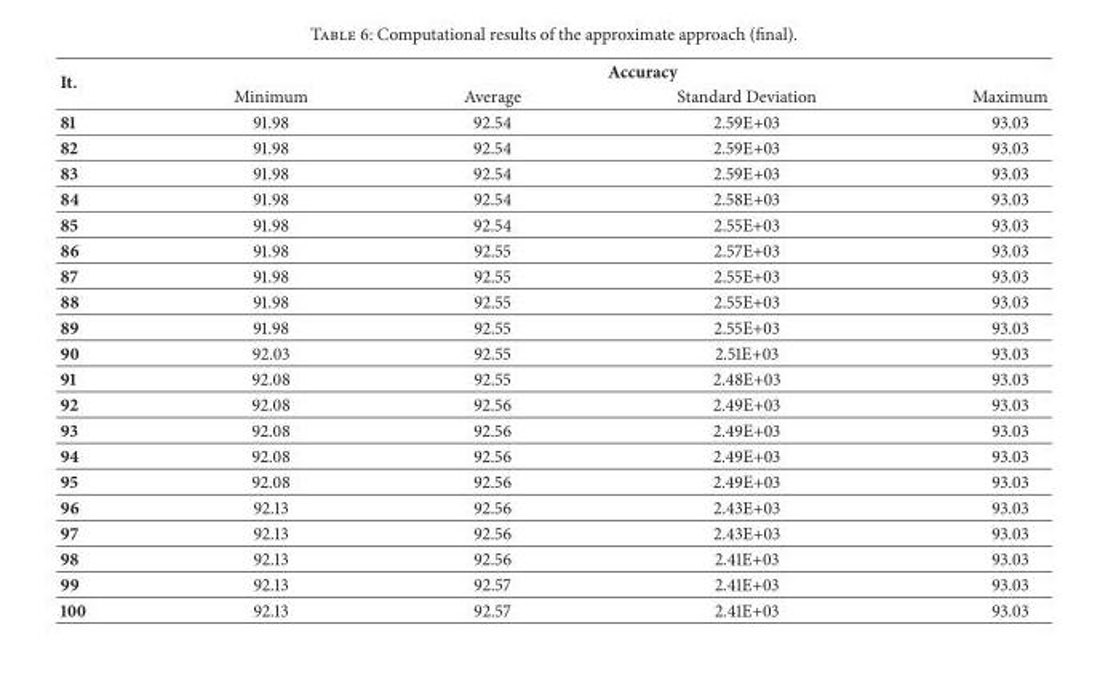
<table><thead><tr><td rowspan="2">It.</td><td colspan="4">Accuracy</td></tr><tr><td>Minimum</td><td>Average</td><td>Standard Deviation</td><td>Maximum</td></tr></thead><tbody><tr><td>81</td><td>91.98</td><td>92.54</td><td>2.59E+03</td><td>93.03</td></tr><tr><td>82</td><td>91.98</td><td>92.54</td><td>2.59E+03</td><td>93.03</td></tr><tr><td>83</td><td>91.98</td><td>92.54</td><td>2.59E+03</td><td>93.03</td></tr><tr><td>84</td><td>91.98</td><td>92.54</td><td>2.58E+03</td><td>93.03</td></tr><tr><td>85</td><td>91.98</td><td>92.54</td><td>2.55E+03</td><td>93.03</td></tr><tr><td>86</td><td>91.98</td><td>92.55</td><td>2.57E+03</td><td>93.03</td></tr><tr><td>87</td><td>91.98</td><td>92.55</td><td>2.55E+03</td><td>93.03</td></tr><tr><td>88</td><td>91.98</td><td>92.55</td><td>2.55E+03</td><td>93.03</td></tr><tr><td>89</td><td>91.98</td><td>92.55</td><td>2.55E+03</td><td>93.03</td></tr><tr><td>90</td><td>92.03</td><td>92.55</td><td>2.51E+03</td><td>93.03</td></tr><tr><td>91</td><td>92.08</td><td>92.55</td><td>2.48E+03</td><td>93.03</td></tr><tr><td>92</td><td>92.08</td><td>92.56</td><td>2.49E+03</td><td>93.03</td></tr><tr><td>93</td><td>92.08</td><td>92.56</td><td>2.49E+03</td><td>93.03</td></tr><tr><td>94</td><td>92.08</td><td>92.56</td><td>2.49E+03</td><td>93.03</td></tr><tr><td>95</td><td>92.08</td><td>92.56</td><td>2.49E+03</td><td>93.03</td></tr><tr><td>96</td><td>92.13</td><td>92.56</td><td>2.43E+03</td><td>93.03</td></tr><tr><td>97</td><td>92.13</td><td>92.56</td><td>2.43E+03</td><td>93.03</td></tr><tr><td>98</td><td>92.13</td><td>92.56</td><td>2.41E+03</td><td>93.03</td></tr><tr><td>99</td><td>92.13</td><td>92.57</td><td>2.41E+03</td><td>93.03</td></tr><tr><td>100</td><td>92.13</td><td>92.57</td><td>2.41E+03</td><td>93.03</td></tr></tbody></table>